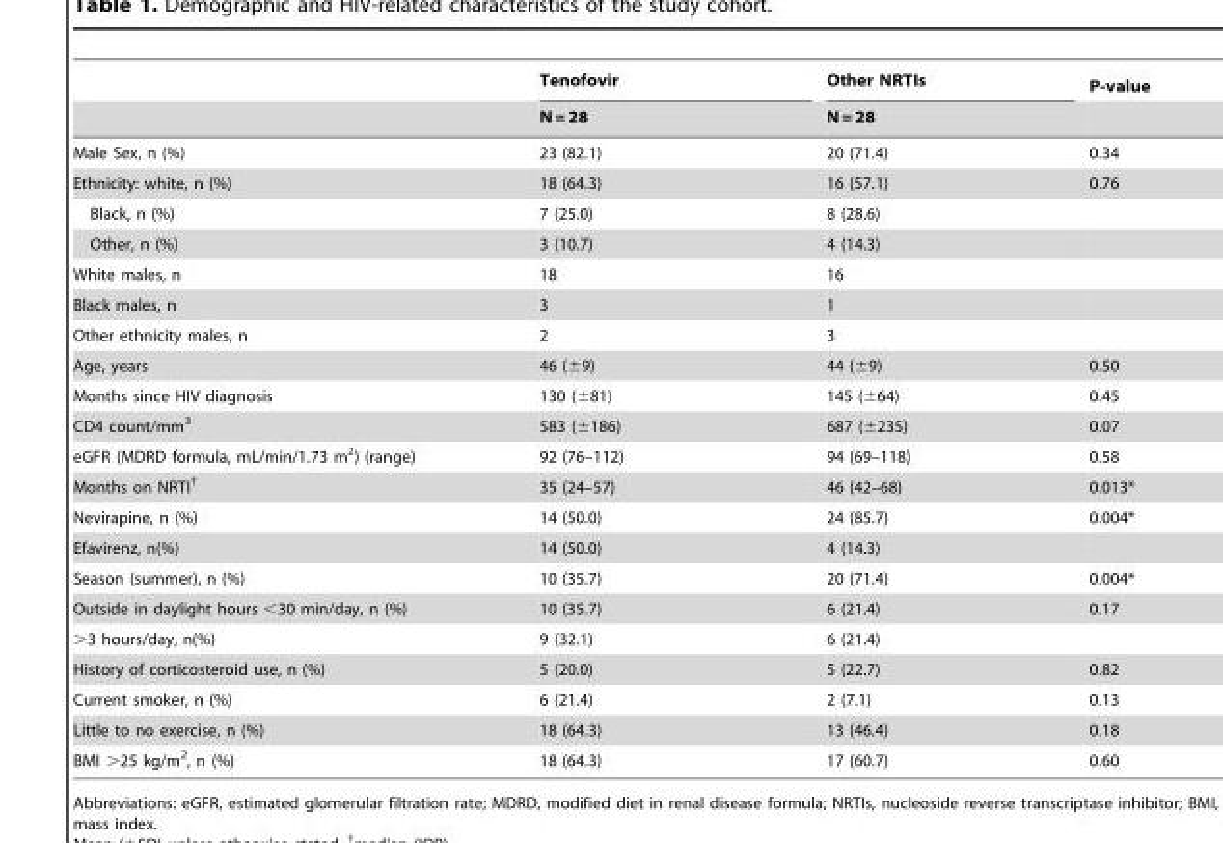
<table><thead><tr><td rowspan="2"></td><td rowspan="2">Tenofovir N = 28</td><td rowspan="2">Other NRTIs N = 28</td><td rowspan="2">P-value</td></tr><tr></tr></thead><tbody><tr><td>Male Sex, n (%)</td><td>23 (82.1)</td><td>20 (71.4)</td><td>0.34</td></tr><tr><td>Ethnicity: white, n (%)</td><td>18 (64.3)</td><td>16 (57.1)</td><td>0.76</td></tr><tr><td>Black, n (%)</td><td>7 (25.0)</td><td>8 (28.6)</td><td></td></tr><tr><td>Other, n (%)</td><td>3 (10.7)</td><td>4 (14.3)</td><td></td></tr><tr><td>White males, n</td><td>18</td><td>16</td><td></td></tr><tr><td>Black males, n</td><td>3</td><td>1</td><td></td></tr><tr><td>Other ethnicity males, n</td><td>2</td><td>3</td><td></td></tr><tr><td>Age, years</td><td>46 (±9)</td><td>44 (±9)</td><td>0.50</td></tr><tr><td>Months since HIV diagnosis</td><td>130 (±81)</td><td>145 (±64)</td><td>0.45</td></tr><tr><td>CD4 count/mm<sup>3</sup></td><td>583 (±186)</td><td>687 (±235)</td><td>0.07</td></tr><tr><td>eGFR (MDRD formula, mL/min/1.73 m<sup>2</sup>) (range)</td><td>92 (76–112)</td><td>94 (69–118)</td><td>0.58</td></tr><tr><td>Months on NRTI<sup>†</sup></td><td>35 (24–57)</td><td>46 (42–68)</td><td>0.013*</td></tr><tr><td>Nevirapine, n (%)</td><td>14 (50.0)</td><td>24 (85.7)</td><td>0.004*</td></tr><tr><td>Efavirenz, n(%)</td><td>14 (50.0)</td><td>4 (14.3)</td><td></td></tr><tr><td>Season (summer), n (%)</td><td>10 (35.7)</td><td>20 (71.4)</td><td>0.004*</td></tr><tr><td>Outside in daylight hours &lt;30 min/day, n (%)</td><td>10 (35.7)</td><td>6 (21.4)</td><td>0.17</td></tr><tr><td>&gt;3 hours/day, n(%)</td><td>9 (32.1)</td><td>6 (21.4)</td><td></td></tr><tr><td>History of corticosteroid use, n (%)</td><td>5 (20.0)</td><td>5 (22.7)</td><td>0.82</td></tr><tr><td>Current smoker, n (%)</td><td>6 (21.4)</td><td>2 (7.1)</td><td>0.13</td></tr><tr><td>Little to no exercise, n (%)</td><td>18 (64.3)</td><td>13 (46.4)</td><td>0.18</td></tr><tr><td>BMI &gt;25 kg/m<sup>2</sup>, n (%)</td><td>18 (64.3)</td><td>17 (60.7)</td><td>0.60</td></tr></tbody></table>